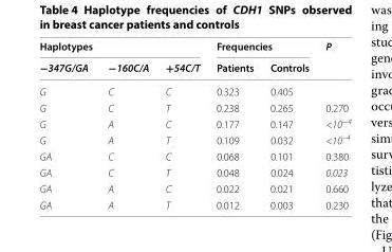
<table><thead><tr><td colspan="3">Haplotypes</td><td colspan="2">Frequencies</td><td rowspan="2">P</td></tr><tr><td>−347G/GA</td><td>−160C/A</td><td>+54C/T</td><td>Patients</td><td>Controls</td></tr></thead><tbody><tr><td>G</td><td>C</td><td>C</td><td>0.323</td><td>0.405</td><td></td></tr><tr><td>G</td><td>C</td><td>T</td><td>0.238</td><td>0.265</td><td>0.270</td></tr><tr><td>G</td><td>A</td><td>C</td><td>0.177</td><td>0.147</td><td>&lt;10<sup>−4</sup></td></tr><tr><td>G</td><td>A</td><td>T</td><td>0.109</td><td>0.032</td><td>&lt;10<sup>−4</sup></td></tr><tr><td>GA</td><td>C</td><td>C</td><td>0.068</td><td>0.101</td><td>0.380</td></tr><tr><td>GA</td><td>C</td><td>T</td><td>0.048</td><td>0.024</td><td>0.023</td></tr><tr><td>GA</td><td>A</td><td>C</td><td>0.022</td><td>0.021</td><td>0.660</td></tr><tr><td>GA</td><td>A</td><td>T</td><td>0.012</td><td>0.003</td><td>0.230</td></tr></tbody></table>